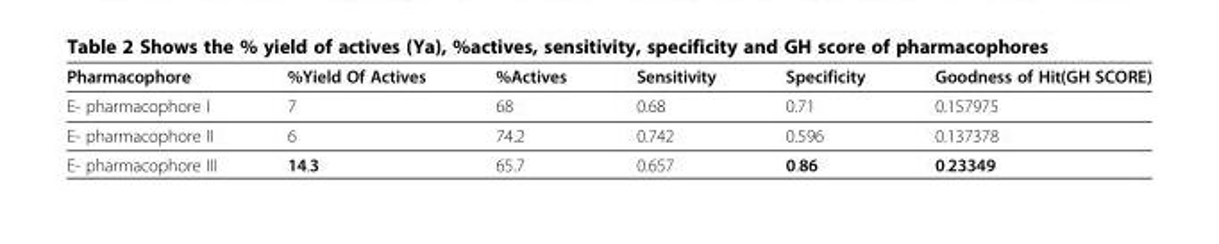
<table><thead><tr><td>Pharmacophore</td><td>%Yield Of Actives</td><td>%Actives</td><td>Sensitivity</td><td>Specificity</td><td>Goodness of Hit(GH SCORE)</td></tr></thead><tbody><tr><td>E- pharmacophore I</td><td>7</td><td>68</td><td>0.68</td><td>0.71</td><td>0.157975</td></tr><tr><td>E- pharmacophore II</td><td>6</td><td>74.2</td><td>0.742</td><td>0.596</td><td>0.137378</td></tr><tr><td>E- pharmacophore III</td><td>14.3</td><td>65.7</td><td>0.657</td><td>0.86</td><td>0.23349</td></tr></tbody></table>